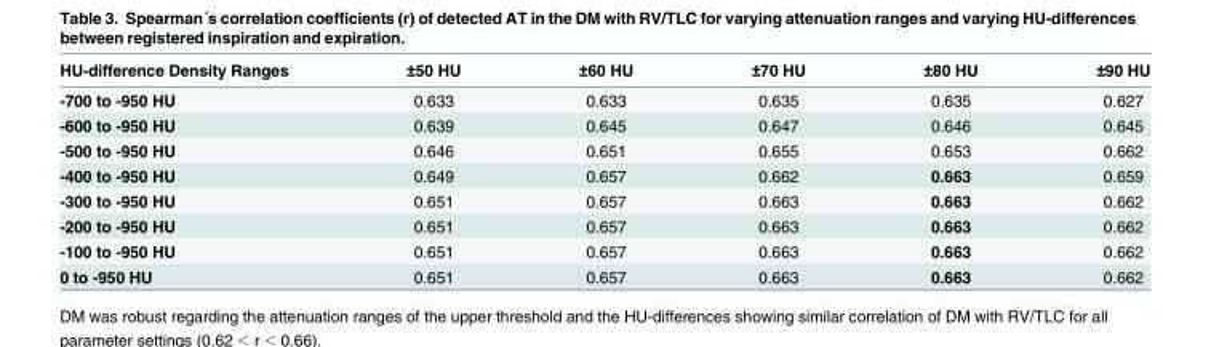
<table><thead><tr><td>HU-difference Density Ranges</td><td>±50 HU</td><td>±60 HU</td><td>±70 HU</td><td>±80 HU</td><td>±90 HU</td></tr></thead><tbody><tr><td>-700 to -950 HU</td><td>0.633</td><td>0.633</td><td>0.635</td><td>0.635</td><td>0.627</td></tr><tr><td>-600 to -950 HU</td><td>0.639</td><td>0.645</td><td>0.647</td><td>0.646</td><td>0.645</td></tr><tr><td>-500 to -950 HU</td><td>0.646</td><td>0.651</td><td>0.655</td><td>0.653</td><td>0.662</td></tr><tr><td>-400 to -950 HU</td><td>0.649</td><td>0.657</td><td>0.662</td><td>0.663</td><td>0.659</td></tr><tr><td>-300 to -950 HU</td><td>0.651</td><td>0.657</td><td>0.663</td><td>0.663</td><td>0.662</td></tr><tr><td>-200 to -950 HU</td><td>0.651</td><td>0.657</td><td>0.663</td><td>0.663</td><td>0.662</td></tr><tr><td>-100 to -950 HU</td><td>0.651</td><td>0.657</td><td>0.663</td><td>0.663</td><td>0.662</td></tr><tr><td>0 to -950 HU</td><td>0.651</td><td>0.657</td><td>0.663</td><td>0.663</td><td>0.662</td></tr></tbody></table>